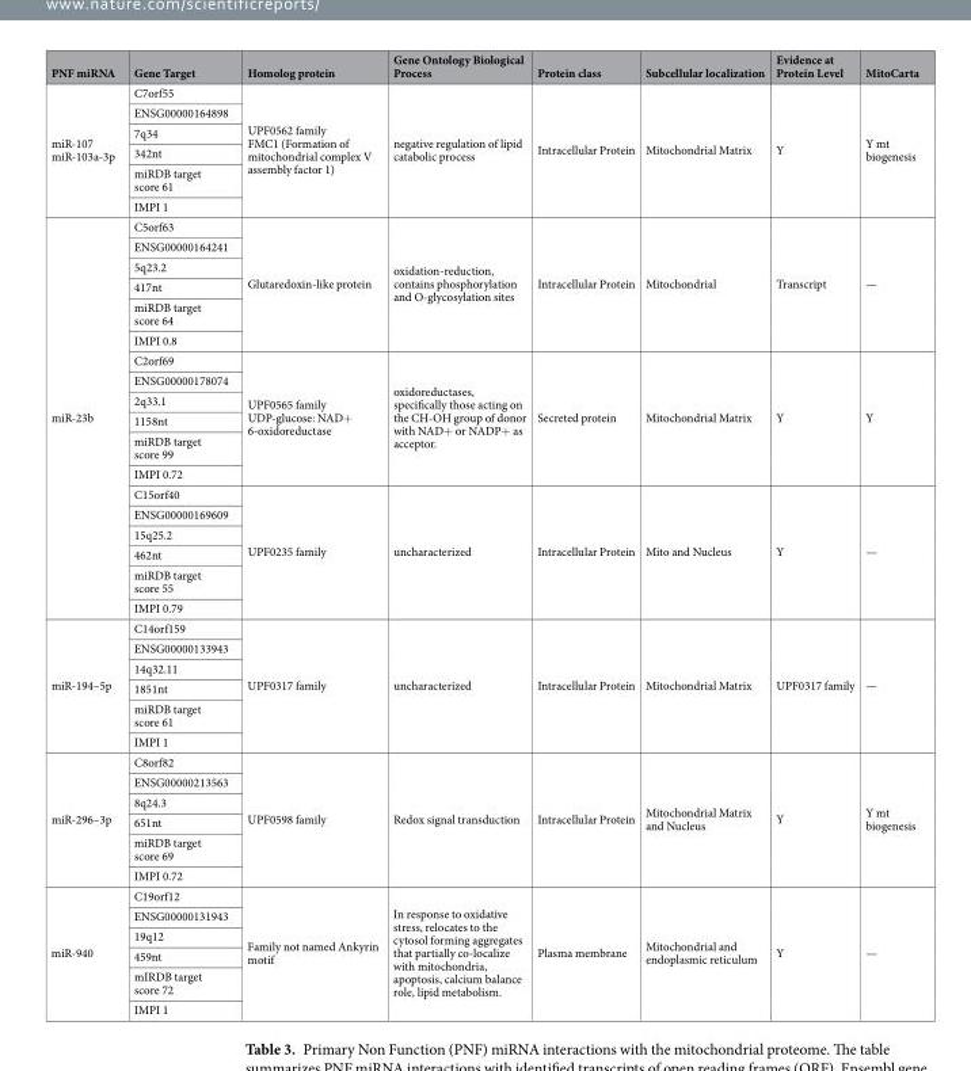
<table><thead><tr><td>PNF miRNA</td><td>Gene Target</td><td>Homolog protein</td><td>Gene Ontology Biological Process</td><td>Protein class</td><td>Subcellular localization</td><td>Evidence at Protein Level</td><td>MitoCarta</td></tr></thead><tbody><tr><td rowspan="6">miR-107 miR-103a-3p</td><td>C7orf55</td><td rowspan="6">UPF0562 family FMC1 (Formation of mitochondrial complex V assembly factor 1)</td><td rowspan="6">negative regulation of lipid catabolic process</td><td rowspan="6">Intracellular Protein</td><td rowspan="6">Mitochondrial Matrix</td><td rowspan="6">Y</td><td rowspan="6">Y mt biogenesis</td></tr><tr><td>ENSG00000164898</td></tr><tr><td>7q34</td></tr><tr><td>342nt</td></tr><tr><td>miRDB target score 61</td></tr><tr><td>IMPI 1</td></tr><tr><td rowspan="18">miR-23b</td><td>C5orf63</td><td rowspan="6">Glutaredoxin-like protein</td><td rowspan="6">oxidation-reduction, contains phosphorylation and O-glycosylation sites</td><td rowspan="6">Intracellular Protein</td><td rowspan="6">Mitochondrial</td><td rowspan="6">Transcript</td><td rowspan="6">—</td></tr><tr><td>ENSG00000164241</td></tr><tr><td>5q23.2</td></tr><tr><td>417nt</td></tr><tr><td>miRDB target score 64</td></tr><tr><td>IMPI 0.8</td></tr><tr><td>C2orf69</td><td rowspan="6">UPF0565 family UDP-glucose: NAD+ 6-oxidoreductase</td><td rowspan="6">oxidoreductases, specifically those acting on the CH-OH group of donor with NAD+ or NADP+ as acceptor.</td><td rowspan="6">Secreted protein</td><td rowspan="6">Mitochondrial Matrix</td><td rowspan="6">Y</td><td rowspan="6">Y</td></tr><tr><td>ENSG00000178074</td></tr><tr><td>2q33.1</td></tr><tr><td>1158nt</td></tr><tr><td>miRDB target score 99</td></tr><tr><td>IMPI 0.72</td></tr><tr><td>C15orf40</td><td rowspan="6">UPF0235 family</td><td rowspan="6">uncharacterized</td><td rowspan="6">Intracellular Protein</td><td rowspan="6">Mito and Nucleus</td><td rowspan="6">Y</td><td rowspan="6">—</td></tr><tr><td>ENSG00000169609</td></tr><tr><td>15q25.2</td></tr><tr><td>462nt</td></tr><tr><td>miRDB target score 55</td></tr><tr><td>IMPI 0.79</td></tr><tr><td rowspan="6">miR-194–5p</td><td>C14orf159</td><td rowspan="6">UPF0317 family</td><td rowspan="6">uncharacterized</td><td rowspan="6">Intracellular Protein</td><td rowspan="6">Mitochondrial Matrix</td><td rowspan="6">UPF0317 family</td><td rowspan="6">—</td></tr><tr><td>ENSG00000133943</td></tr><tr><td>14q32.11</td></tr><tr><td>1851nt</td></tr><tr><td>miRDB target score 61</td></tr><tr><td>IMPI 1</td></tr><tr><td rowspan="6">miR-296–3p</td><td>C8orf82</td><td rowspan="6">UPF0598 family</td><td rowspan="6">Redox signal transduction</td><td rowspan="6">Intracellular Protein</td><td rowspan="6">Mitochondrial Matrix and Nucleus</td><td rowspan="6">Y</td><td rowspan="6">Y mt biogenesis</td></tr><tr><td>ENSG00000213563</td></tr><tr><td>8q24.3</td></tr><tr><td>651nt</td></tr><tr><td>miRDB target score 69</td></tr><tr><td>IMPI 0.72</td></tr><tr><td rowspan="6">miR-940</td><td>C19orf12</td><td rowspan="6">Family not named Ankyrin motif</td><td rowspan="6">In response to oxidative stress, relocates to the cytosol forming aggregates that partially co-localize with mitochondria, apoptosis, calcium balance role, lipid metabolism.</td><td rowspan="6">Plasma membrane</td><td rowspan="6">Mitochondrial and endoplasmic reticulum</td><td rowspan="6">Y</td><td rowspan="6">—</td></tr><tr><td>ENSG00000131943</td></tr><tr><td>19q12</td></tr><tr><td>459nt</td></tr><tr><td>mIRDB target score 72</td></tr><tr><td>IMPI 1</td></tr></tbody></table>